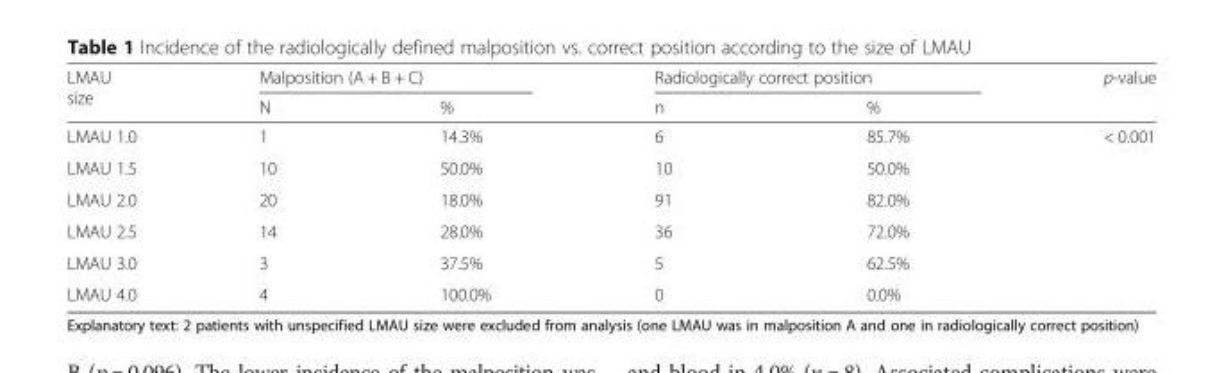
<table><thead><tr><td rowspan="2">LMAU size</td><td colspan="2">Malposition (A + B + C)</td><td colspan="2">Radiologically correct position</td><td rowspan="2">p-value</td></tr><tr><td>N</td><td>%</td><td>n</td><td>%</td></tr></thead><tbody><tr><td>LMAU 1.0</td><td>1</td><td>14.3%</td><td>6</td><td>85.7%</td><td rowspan="6">&lt; 0.001</td></tr><tr><td>LMAU 1.5</td><td>10</td><td>50.0%</td><td>10</td><td>50.0%</td></tr><tr><td>LMAU 2.0</td><td>20</td><td>18.0%</td><td>91</td><td>82.0%</td></tr><tr><td>LMAU 2.5</td><td>14</td><td>28.0%</td><td>36</td><td>72.0%</td></tr><tr><td>LMAU 3.0</td><td>3</td><td>37.5%</td><td>5</td><td>62.5%</td></tr><tr><td>LMAU 4.0</td><td>4</td><td>100.0%</td><td>0</td><td>0.0%</td></tr></tbody></table>